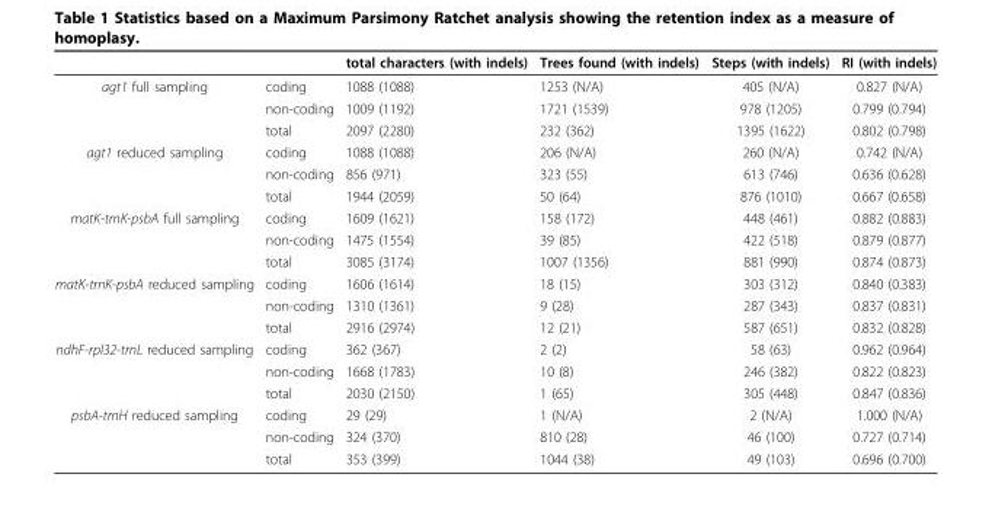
<table><thead><tr><td></td><td></td><td>total characters (with indels)</td><td>Trees found (with indels)</td><td>Steps (with indels)</td><td>RI (with indels)</td></tr></thead><tbody><tr><td rowspan="3">agt1 full sampling</td><td>coding</td><td>1088 (1088)</td><td>1253 (N/A)</td><td>405 (N/A)</td><td>0.827 (N/A)</td></tr><tr><td>non-coding</td><td>1009 (1192)</td><td>1721 (1539)</td><td>978 (1205)</td><td>0.799 (0.794)</td></tr><tr><td>total</td><td>2097 (2280)</td><td>232 (362)</td><td>1395 (1622)</td><td>0.802 (0.798)</td></tr><tr><td rowspan="3">agt1 reduced sampling</td><td>coding</td><td>1088 (1088)</td><td>206 (N/A)</td><td>260 (N/A)</td><td>0.742 (N/A)</td></tr><tr><td>non-coding</td><td>856 (971)</td><td>323 (55)</td><td>613 (746)</td><td>0.636 (0.628)</td></tr><tr><td>total</td><td>1944 (2059)</td><td>50 (64)</td><td>876 (1010)</td><td>0.667 (0.658)</td></tr><tr><td rowspan="3">matK-trnK-psbA full sampling</td><td>coding</td><td>1609 (1621)</td><td>158 (172)</td><td>448 (461)</td><td>0.882 (0.883)</td></tr><tr><td>non-coding</td><td>1475 (1554)</td><td>39 (85)</td><td>422 (518)</td><td>0.879 (0.877)</td></tr><tr><td>total</td><td>3085 (3174)</td><td>1007 (1356)</td><td>881 (990)</td><td>0.874 (0.873)</td></tr><tr><td rowspan="3">matK-trnK-psbA reduced sampling</td><td>coding</td><td>1606 (1614)</td><td>18 (15)</td><td>303 (312)</td><td>0.840 (0.383)</td></tr><tr><td>non-coding</td><td>1310 (1361)</td><td>9 (28)</td><td>287 (343)</td><td>0.837 (0.831)</td></tr><tr><td>total</td><td>2916 (2974)</td><td>12 (21)</td><td>587 (651)</td><td>0.832 (0.828)</td></tr><tr><td rowspan="3">ndhF-rpl32-trnL reduced sampling</td><td>coding</td><td>362 (367)</td><td>2 (2)</td><td>58 (63)</td><td>0.962 (0.964)</td></tr><tr><td>non-coding</td><td>1668 (1783)</td><td>10 (8)</td><td>246 (382)</td><td>0.822 (0.823)</td></tr><tr><td>total</td><td>2030 (2150)</td><td>1 (65)</td><td>305 (448)</td><td>0.847 (0.836)</td></tr><tr><td rowspan="3">psbA-trnH reduced sampling</td><td>coding</td><td>29 (29)</td><td>1 (N/A)</td><td>2 (N/A)</td><td>1.000 (N/A)</td></tr><tr><td>non-coding</td><td>324 (370)</td><td>810 (28)</td><td>46 (100)</td><td>0.727 (0.714)</td></tr><tr><td>total</td><td>353 (399)</td><td>1044 (38)</td><td>49 (103)</td><td>0.696 (0.700)</td></tr></tbody></table>